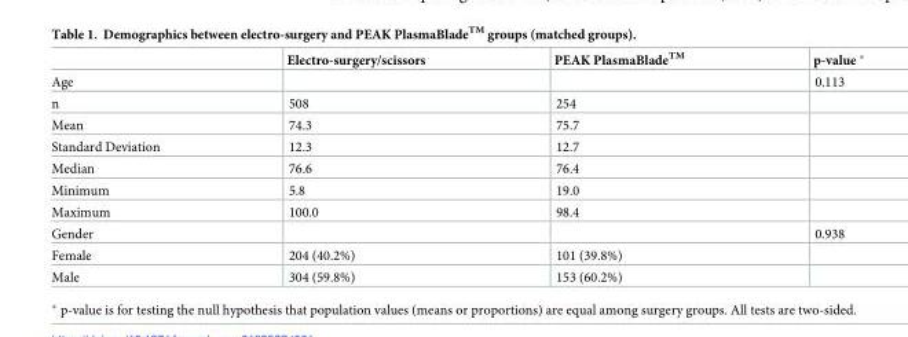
<table><thead><tr><td></td><td>Electro-surgery/scissors</td><td>PEAK PlasmaBlade<sup>TM</sup></td><td>p-value</td></tr></thead><tbody><tr><td>Age</td><td></td><td></td><td>0.113</td></tr><tr><td>n</td><td>508</td><td>254</td><td></td></tr><tr><td>Mean</td><td>74.3</td><td>75.7</td><td></td></tr><tr><td>Standard Deviation</td><td>12.3</td><td>12.7</td><td></td></tr><tr><td>Median</td><td>76.6</td><td>76.4</td><td></td></tr><tr><td>Minimum</td><td>5.8</td><td>19.0</td><td></td></tr><tr><td>Maximum</td><td>100.0</td><td>98.4</td><td></td></tr><tr><td>Gender</td><td></td><td></td><td>0.938</td></tr><tr><td>Female</td><td>204 (40.2%)</td><td>101 (39.8%)</td><td></td></tr><tr><td>Male</td><td>304 (59.8%)</td><td>153 (60.2%)</td><td></td></tr></tbody></table>